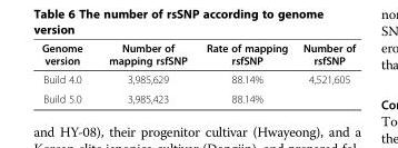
<table><thead><tr><td>Genome version</td><td>Number of mapping rsfSNP</td><td>Rate of mapping rsfSNP</td><td>Number of rsfSNP</td></tr></thead><tbody><tr><td>Build 4.0</td><td>3,985,629</td><td>88.14%</td><td>4,521,605</td></tr><tr><td>Build 5.0</td><td>3,985,423</td><td>88.14%</td><td></td></tr></tbody></table>